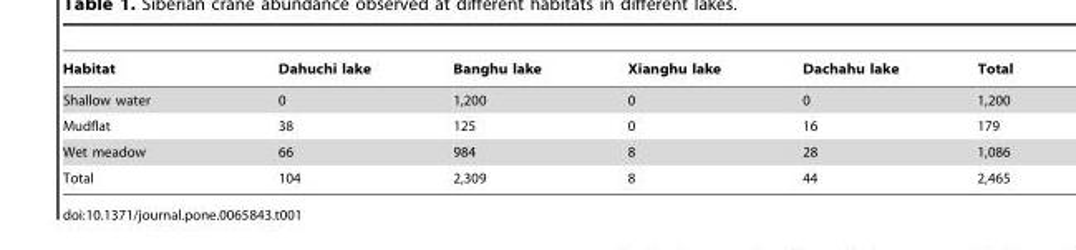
<table><thead><tr><td>Habitat</td><td>Dahuchi lake</td><td>Banghu lake</td><td>Xianghu lake</td><td>Dachahu lake</td><td>Total</td></tr></thead><tbody><tr><td>Shallow water</td><td>0</td><td>1,200</td><td>0</td><td>0</td><td>1,200</td></tr><tr><td>Mudflat</td><td>38</td><td>125</td><td>0</td><td>16</td><td>179</td></tr><tr><td>Wet meadow</td><td>66</td><td>984</td><td>8</td><td>28</td><td>1,086</td></tr><tr><td>Total</td><td>104</td><td>2,309</td><td>8</td><td>44</td><td>2,465</td></tr></tbody></table>